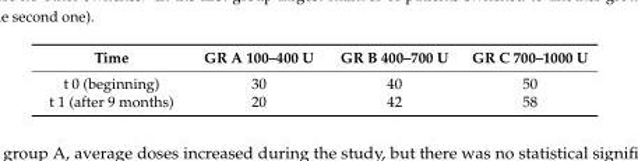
<table><thead><tr><td>Time</td><td>GR A 100–400 U</td><td>GR B 400–700 U</td><td>GR C 700–1000 U</td></tr></thead><tbody><tr><td>t 0 (beginning)</td><td>30</td><td>40</td><td>50</td></tr><tr><td>t 1 (after 9 months)</td><td>20</td><td>42</td><td>58</td></tr></tbody></table>